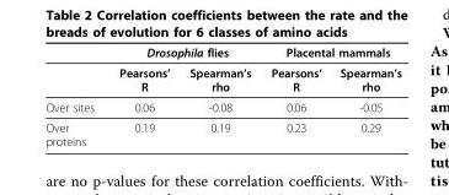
<table><thead><tr><td rowspan="2"></td><td colspan="2">Drosophila flies</td><td colspan="2">Placental mammals</td></tr><tr><td>Pearsons’ R</td><td>Spearman’s rho</td><td>Pearsons’ R</td><td>Spearman’s rho</td></tr></thead><tbody><tr><td>Over sites</td><td>0.06</td><td>-0.08</td><td>0.06</td><td>-0.05</td></tr><tr><td>Over proteins</td><td>0.19</td><td>0.19</td><td>0.23</td><td>0.29</td></tr></tbody></table>